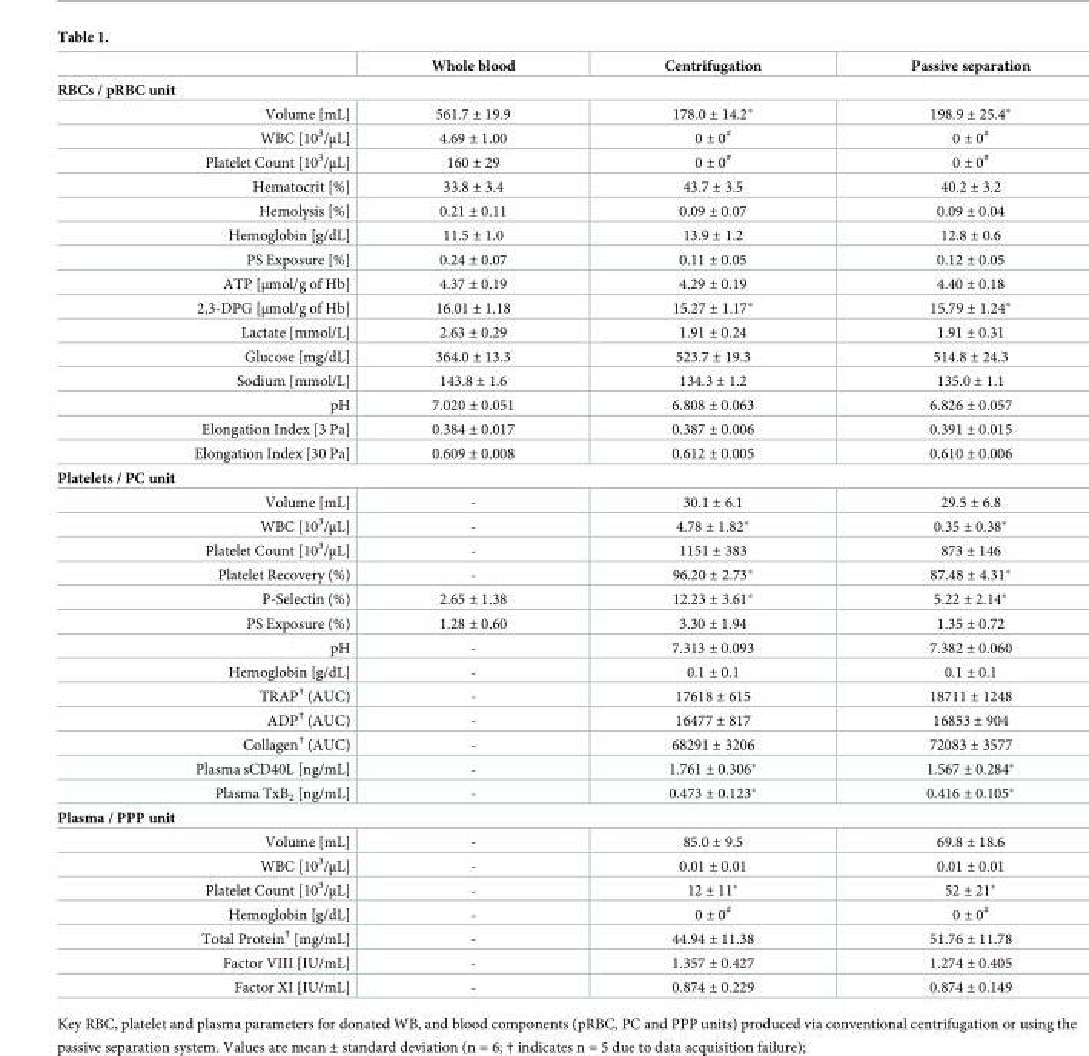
<table><thead><tr><td></td><td>Whole blood</td><td>Centrifugation</td><td>Passive separation</td></tr></thead><tbody><tr><td colspan="4">RBCs / pRBC unit</td></tr><tr><td>Volume [mL]</td><td>561.7 ± 19.9</td><td>178.0 ± 14.2*</td><td>198.9 ± 25.4*</td></tr><tr><td>WBC [10<sup>3</sup>/μL]</td><td>4.69 ± 1.00</td><td>0 ± 0<sup>#</sup></td><td>0 ± 0<sup>#</sup></td></tr><tr><td>Platelet Count [10<sup>3</sup>/μL]</td><td>160 ± 29</td><td>0 ± 0<sup>#</sup></td><td>0 ± 0<sup>#</sup></td></tr><tr><td>Hematocrit [%]</td><td>33.8 ± 3.4</td><td>43.7 ± 3.5</td><td>40.2 ± 3.2</td></tr><tr><td>Hemolysis [%]</td><td>0.21 ± 0.11</td><td>0.09 ± 0.07</td><td>0.09 ± 0.04</td></tr><tr><td>Hemoglobin [g/dL]</td><td>11.5 ± 1.0</td><td>13.9 ± 1.2</td><td>12.8 ± 0.6</td></tr><tr><td>PS Exposure [%]</td><td>0.24 ± 0.07</td><td>0.11 ± 0.05</td><td>0.12 ± 0.05</td></tr><tr><td>ATP [μmol/g of Hb]</td><td>4.37 ± 0.19</td><td>4.29 ± 0.19</td><td>4.40 ± 0.18</td></tr><tr><td>2,3-DPG [μmol/g of Hb]</td><td>16.01 ± 1.18</td><td>15.27 ± 1.17*</td><td>15.79 ± 1.24*</td></tr><tr><td>Lactate [mmol/L]</td><td>2.63 ± 0.29</td><td>1.91 ± 0.24</td><td>1.91 ± 0.31</td></tr><tr><td>Glucose [mg/dL]</td><td>364.0 ± 13.3</td><td>523.7 ± 19.3</td><td>514.8 ± 24.3</td></tr><tr><td>Sodium [mmol/L]</td><td>143.8 ± 1.6</td><td>134.3 ± 1.2</td><td>135.0 ± 1.1</td></tr><tr><td>pH</td><td>7.020 ± 0.051</td><td>6.808 ± 0.063</td><td>6.826 ± 0.057</td></tr><tr><td>Elongation Index [3 Pa]</td><td>0.384 ± 0.017</td><td>0.387 ± 0.006</td><td>0.391 ± 0.015</td></tr><tr><td>Elongation Index [30 Pa]</td><td>0.609 ± 0.008</td><td>0.612 ± 0.005</td><td>0.610 ± 0.006</td></tr><tr><td colspan="4">Platelets / PC unit</td></tr><tr><td>Volume [mL]</td><td>-</td><td>30.1 ± 6.1</td><td>29.5 ± 6.8</td></tr><tr><td>WBC [10<sup>3</sup>/μL]</td><td>-</td><td>4.78 ± 1.82*</td><td>0.35 ± 0.38*</td></tr><tr><td>Platelet Count [10<sup>3</sup>/μL]</td><td>-</td><td>1151 ± 383</td><td>873 ± 146</td></tr><tr><td>Platelet Recovery (%)</td><td>-</td><td>96.20 ± 2.73*</td><td>87.48 ± 4.31*</td></tr><tr><td>P-Selectin (%)</td><td>2.65 ± 1.38</td><td>12.23 ± 3.61*</td><td>5.22 ± 2.14*</td></tr><tr><td>PS Exposure (%)</td><td>1.28 ± 0.60</td><td>3.30 ± 1.94</td><td>1.35 ± 0.72</td></tr><tr><td>pH</td><td>-</td><td>7.313 ± 0.093</td><td>7.382 ± 0.060</td></tr><tr><td>Hemoglobin [g/dL]</td><td>-</td><td>0.1 ± 0.1</td><td>0.1 ± 0.1</td></tr><tr><td>TRAP<sup>†</sup> (AUC)</td><td>-</td><td>17618 ± 615</td><td>18711 ± 1248</td></tr><tr><td>ADP<sup>†</sup> (AUC)</td><td>-</td><td>16477 ± 817</td><td>16853 ± 904</td></tr><tr><td>Collagen<sup>†</sup> (AUC)</td><td>-</td><td>68291 ± 3206</td><td>72083 ± 3577</td></tr><tr><td>Plasma sCD40L [ng/mL]</td><td>-</td><td>1.761 ± 0.306*</td><td>1.567 ± 0.284*</td></tr><tr><td>Plasma TxB<sub>2</sub> [ng/mL]</td><td>-</td><td>0.473 ± 0.123*</td><td>0.416 ± 0.105*</td></tr><tr><td colspan="4">Plasma / PPP unit</td></tr><tr><td>Volume [mL]</td><td>-</td><td>85.0 ± 9.5</td><td>69.8 ± 18.6</td></tr><tr><td>WBC [10<sup>3</sup>/μL]</td><td>-</td><td>0.01 ± 0.01</td><td>0.01 ± 0.01</td></tr><tr><td>Platelet Count [10<sup>3</sup>/μL]</td><td>-</td><td>12 ± 11*</td><td>52 ± 21*</td></tr><tr><td>Hemoglobin [g/dL]</td><td>-</td><td>0 ± 0<sup>#</sup></td><td>0 ± 0<sup>#</sup></td></tr><tr><td>Total Protein<sup>†</sup> [mg/mL]</td><td>-</td><td>44.94 ± 11.38</td><td>51.76 ± 11.78</td></tr><tr><td>Factor VIII [IU/mL]</td><td>-</td><td>1.357 ± 0.427</td><td>1.274 ± 0.405</td></tr><tr><td>Factor XI [IU/mL]</td><td>-</td><td>0.874 ± 0.229</td><td>0.874 ± 0.149</td></tr></tbody></table>